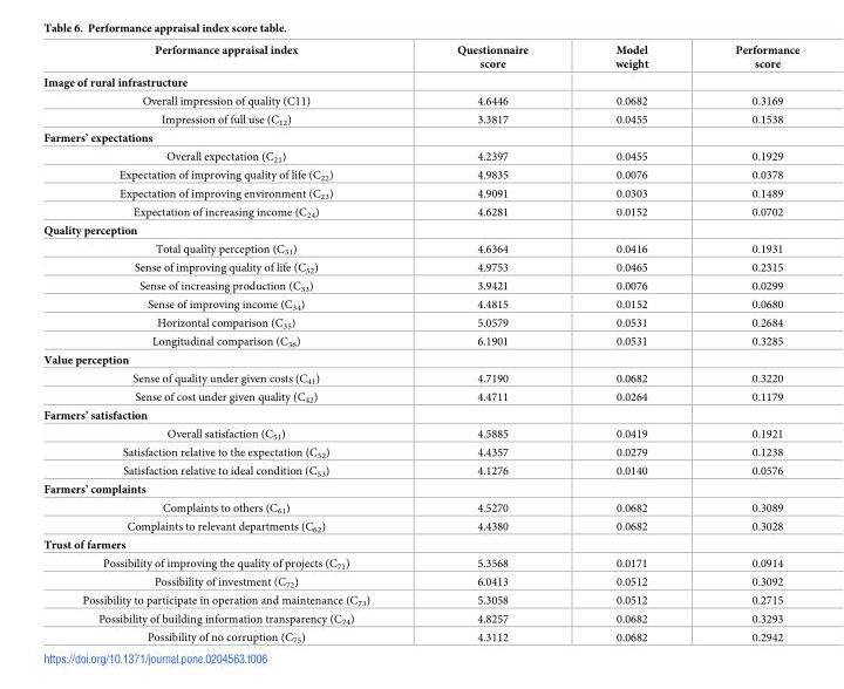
<table><thead><tr><td>Performance appraisal index</td><td>Questionnaire score</td><td>Model weight</td><td>Performance score</td></tr></thead><tbody><tr><td colspan="4">Image of rural infrastructure</td></tr><tr><td>Overall impression of quality (C11)</td><td>4.6446</td><td>0.0682</td><td>0.3169</td></tr><tr><td>Impression of full use (C<sub>12</sub>)</td><td>3.3817</td><td>0.0455</td><td>0.1538</td></tr><tr><td colspan="4">Farmers’ expectations</td></tr><tr><td>Overall expectation (C<sub>21</sub>)</td><td>4.2397</td><td>0.0455</td><td>0.1929</td></tr><tr><td>Expectation of improving quality of life (C<sub>22</sub>)</td><td>4.9835</td><td>0.0076</td><td>0.0378</td></tr><tr><td>Expectation of improving environment (C<sub>23</sub>)</td><td>4.9091</td><td>0.0303</td><td>0.1489</td></tr><tr><td>Expectation of increasing income (C<sub>24</sub>)</td><td>4.6281</td><td>0.0152</td><td>0.0702</td></tr><tr><td colspan="4">Quality perception</td></tr><tr><td>Total quality perception (C<sub>31</sub>)</td><td>4.6364</td><td>0.0416</td><td>0.1931</td></tr><tr><td>Sense of improving quality of life (C<sub>32</sub>)</td><td>4.9753</td><td>0.0465</td><td>0.2315</td></tr><tr><td>Sense of increasing production (C<sub>33</sub>)</td><td>3.9421</td><td>0.0076</td><td>0.0299</td></tr><tr><td>Sense of improving income (C<sub>34</sub>)</td><td>4.4815</td><td>0.0152</td><td>0.0680</td></tr><tr><td>Horizontal comparison (C<sub>35</sub>)</td><td>5.0579</td><td>0.0531</td><td>0.2684</td></tr><tr><td>Longitudinal comparison (C<sub>36</sub>)</td><td>6.1901</td><td>0.0531</td><td>0.3285</td></tr><tr><td colspan="4">Value perception</td></tr><tr><td>Sense of quality under given costs (C<sub>41</sub>)</td><td>4.7190</td><td>0.0682</td><td>0.3220</td></tr><tr><td>Sense of cost under given quality (C<sub>42</sub>)</td><td>4.4711</td><td>0.0264</td><td>0.1179</td></tr><tr><td colspan="4">Farmers’ satisfaction</td></tr><tr><td>Overall satisfaction (C<sub>51</sub>)</td><td>4.5885</td><td>0.0419</td><td>0.1921</td></tr><tr><td>Satisfaction relative to the expectation (C<sub>52</sub>)</td><td>4.4357</td><td>0.0279</td><td>0.1238</td></tr><tr><td>Satisfaction relative to ideal condition (C<sub>53</sub>)</td><td>4.1276</td><td>0.0140</td><td>0.0576</td></tr><tr><td colspan="4">Farmers’ complaints</td></tr><tr><td>Complaints to others (C<sub>61</sub>)</td><td>4.5270</td><td>0.0682</td><td>0.3089</td></tr><tr><td>Complaints to relevant departments (C<sub>62</sub>)</td><td>4.4380</td><td>0.0682</td><td>0.3028</td></tr><tr><td colspan="4">Trust of farmers</td></tr><tr><td>Possibility of improving the quality of projects (C<sub>71</sub>)</td><td>5.3568</td><td>0.0171</td><td>0.0914</td></tr><tr><td>Possibility of investment (C<sub>72</sub>)</td><td>6.0413</td><td>0.0512</td><td>0.3092</td></tr><tr><td>Possibility to participate in operation and maintenance (C<sub>73</sub>)</td><td>5.3058</td><td>0.0512</td><td>0.2715</td></tr><tr><td>Possibility of building information transparency (C<sub>74</sub>)</td><td>4.8257</td><td>0.0682</td><td>0.3293</td></tr><tr><td>Possibility of no corruption (C<sub>75</sub>)</td><td>4.3112</td><td>0.0682</td><td>0.2942</td></tr></tbody></table>